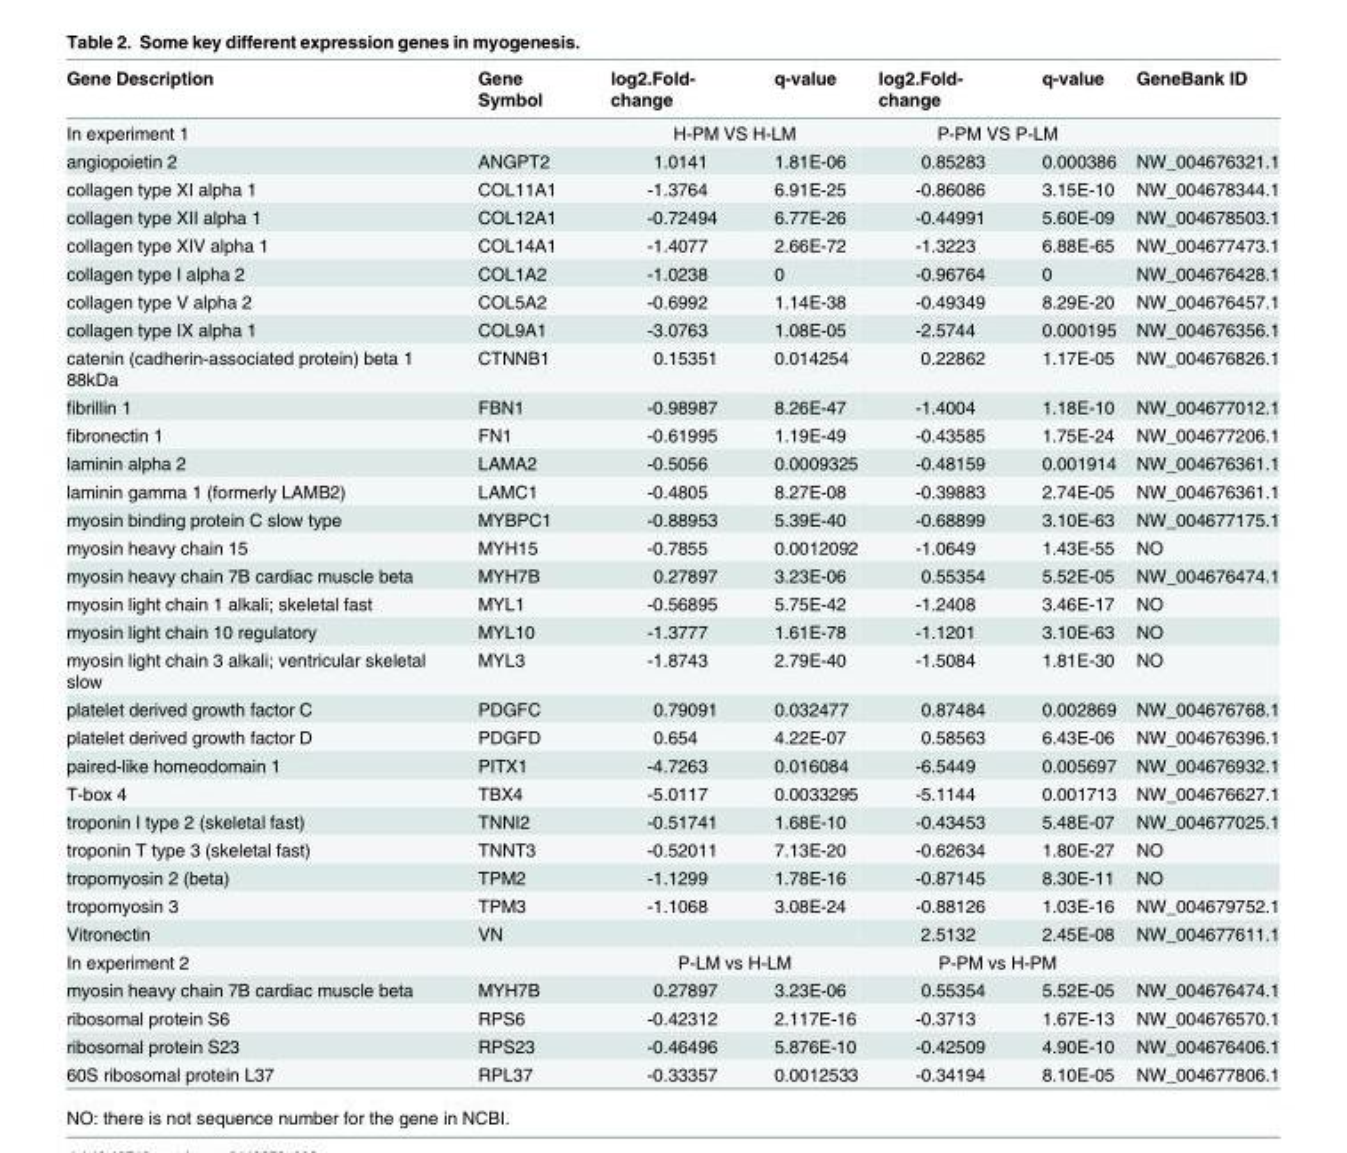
<table><thead><tr><td>Gene Description</td><td>Gene Symbol</td><td>log2.Fold- change</td><td>q-value</td><td>log2.Fold- change</td><td>q-value</td><td>GeneBank ID</td></tr></thead><tbody><tr><td>In experiment 1</td><td></td><td colspan="2">H-PM VS H-LM</td><td colspan="2">P-PM VS P-LM</td><td></td></tr><tr><td>angiopoietin 2</td><td>ANGPT2</td><td>1.0141</td><td>1.81E-06</td><td>0.85283</td><td>0.000386</td><td>NW_004676321.1</td></tr><tr><td>collagen type XI alpha 1</td><td>COL11A1</td><td>-1.3764</td><td>6.91E-25</td><td>-0.86086</td><td>3.15E-10</td><td>NW_004678344.1</td></tr><tr><td>collagen type XII alpha 1</td><td>COL12A1</td><td>-0.72494</td><td>6.77E-26</td><td>-0.44991</td><td>5.60E-09</td><td>NW_004678503.1</td></tr><tr><td>collagen type XIV alpha 1</td><td>COL14A1</td><td>-1.4077</td><td>2.66E-72</td><td>-1.3223</td><td>6.88E-65</td><td>NW_004677473.1</td></tr><tr><td>collagen type I alpha 2</td><td>COL1A2</td><td>-1.0238</td><td>0</td><td>-0.96764</td><td>0</td><td>NW_004676428.1</td></tr><tr><td>collagen type V alpha 2</td><td>COL5A2</td><td>-0.6992</td><td>1.14E-38</td><td>-0.49349</td><td>8.29E-20</td><td>NW_004676457.1</td></tr><tr><td>collagen type IX alpha 1</td><td>COL9A1</td><td>-3.0763</td><td>1.08E-05</td><td>-2.5744</td><td>0.000195</td><td>NW_004676356.1</td></tr><tr><td>catenin (cadherin-associated protein) beta 1 88kDa</td><td>CTNNB1</td><td>0.15351</td><td>0.014254</td><td>0.22862</td><td>1.17E-05</td><td>NW_004676826.1</td></tr><tr><td>fibrillin 1</td><td>FBN1</td><td>-0.98987</td><td>8.26E-47</td><td>-1.4004</td><td>1.18E-10</td><td>NW_004677012.1</td></tr><tr><td>fibronectin 1</td><td>FN1</td><td>-0.61995</td><td>1.19E-49</td><td>-0.43585</td><td>1.75E-24</td><td>NW_004677206.1</td></tr><tr><td>laminin alpha 2</td><td>LAMA2</td><td>-0.5056</td><td>0.0009325</td><td>-0.48159</td><td>0.001914</td><td>NW_004676361.1</td></tr><tr><td>laminin gamma 1 (formerly LAMB2)</td><td>LAMC1</td><td>-0.4805</td><td>8.27E-08</td><td>-0.39883</td><td>2.74E-05</td><td>NW_004676361.1</td></tr><tr><td>myosin binding protein C slow type</td><td>MYBPC1</td><td>-0.88953</td><td>5.39E-40</td><td>-0.68899</td><td>3.10E-63</td><td>NW_004677175.1</td></tr><tr><td>myosin heavy chain 15</td><td>MYH15</td><td>-0.7855</td><td>0.0012092</td><td>-1.0649</td><td>1.43E-55</td><td>NO</td></tr><tr><td>myosin heavy chain 7B cardiac muscle beta</td><td>MYH7B</td><td>0.27897</td><td>3.23E-06</td><td>0.55354</td><td>5.52E-05</td><td>NW_004676474.1</td></tr><tr><td>myosin light chain 1 alkali; skeletal fast</td><td>MYL1</td><td>-0.56895</td><td>5.75E-42</td><td>-1.2408</td><td>3.46E-17</td><td>NO</td></tr><tr><td>myosin light chain 10 regulatory</td><td>MYL10</td><td>-1.3777</td><td>1.61E-78</td><td>-1.1201</td><td>3.10E-63</td><td>NO</td></tr><tr><td>myosin light chain 3 alkali; ventricular skeletal slow</td><td>MYL3</td><td>-1.8743</td><td>2.79E-40</td><td>-1.5084</td><td>1.81E-30</td><td>NO</td></tr><tr><td>platelet derived growth factor C</td><td>PDGFC</td><td>0.79091</td><td>0.032477</td><td>0.87484</td><td>0.002869</td><td>NW_004676768.1</td></tr><tr><td>platelet derived growth factor D</td><td>PDGFD</td><td>0.654</td><td>4.22E-07</td><td>0.58563</td><td>6.43E-06</td><td>NW_004676396.1</td></tr><tr><td>paired-like homeodomain 1</td><td>PITX1</td><td>-4.7263</td><td>0.016084</td><td>-6.5449</td><td>0.005697</td><td>NW_004676932.1</td></tr><tr><td>T-box 4</td><td>TBX4</td><td>-5.0117</td><td>0.0033295</td><td>-5.1144</td><td>0.001713</td><td>NW_004676627.1</td></tr><tr><td>troponin I type 2 (skeletal fast)</td><td>TNNI2</td><td>-0.51741</td><td>1.68E-10</td><td>-0.43453</td><td>5.48E-07</td><td>NW_004677025.1</td></tr><tr><td>troponin T type 3 (skeletal fast)</td><td>TNNT3</td><td>-0.52011</td><td>7.13E-20</td><td>-0.62634</td><td>1.80E-27</td><td>NO</td></tr><tr><td>tropomyosin 2 (beta)</td><td>TPM2</td><td>-1.1299</td><td>1.78E-16</td><td>-0.87145</td><td>8.30E-11</td><td>NO</td></tr><tr><td>tropomyosin 3</td><td>TPM3</td><td>-1.1068</td><td>3.08E-24</td><td>-0.88126</td><td>1.03E-16</td><td>NW_004679752.1</td></tr><tr><td>Vitronectin</td><td>VN</td><td></td><td></td><td>2.5132</td><td>2.45E-08</td><td>NW_004677611.1</td></tr><tr><td>In experiment 2</td><td></td><td colspan="2">P-LM vs H-LM</td><td colspan="2">P-PM vs H-PM</td><td></td></tr><tr><td>myosin heavy chain 7B cardiac muscle beta</td><td>MYH7B</td><td>0.27897</td><td>3.23E-06</td><td>0.55354</td><td>5.52E-05</td><td>NW_004676474.1</td></tr><tr><td>ribosomal protein S6</td><td>RPS6</td><td>-0.42312</td><td>2.117E-16</td><td>-0.3713</td><td>1.67E-13</td><td>NW_004676570.1</td></tr><tr><td>ribosomal protein S23</td><td>RPS23</td><td>-0.46496</td><td>5.876E-10</td><td>-0.42509</td><td>4.90E-10</td><td>NW_004676406.1</td></tr><tr><td>60S ribosomal protein L37</td><td>RPL37</td><td>-0.33357</td><td>0.0012533</td><td>-0.34194</td><td>8.10E-05</td><td>NW_004677806.1</td></tr></tbody></table>